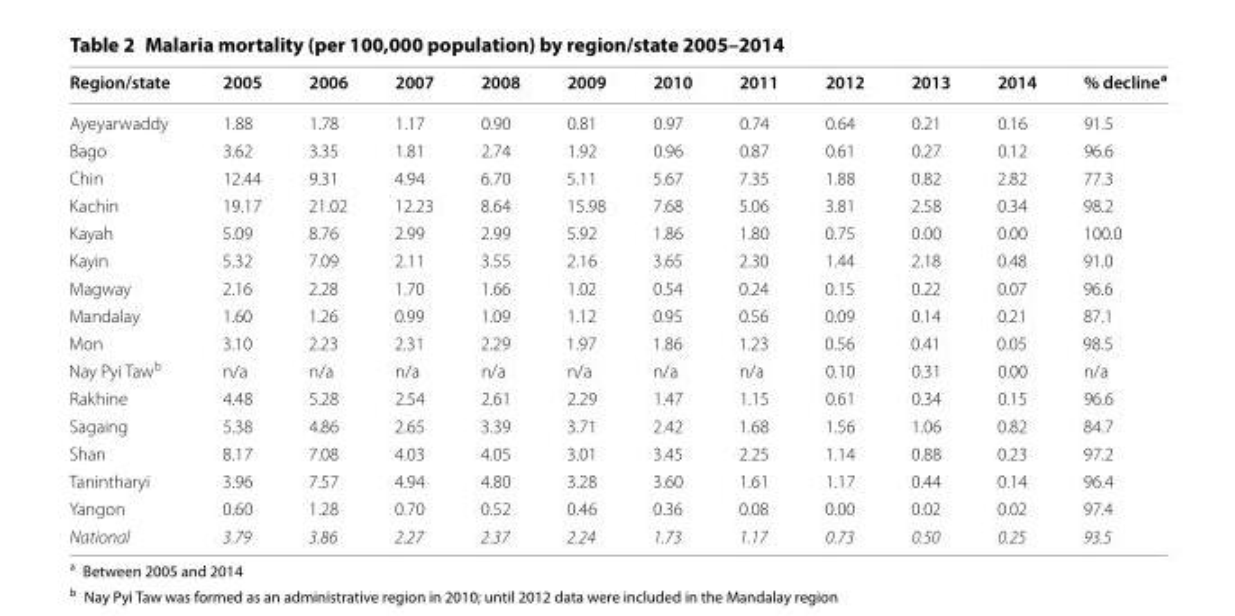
<table><thead><tr><td>Region/state</td><td>2005</td><td>2006</td><td>2007</td><td>2008</td><td>2009</td><td>2010</td><td>2011</td><td>2012</td><td>2013</td><td>2014</td><td>% decline<sup>a</sup></td></tr></thead><tbody><tr><td>Ayeyarwaddy</td><td>1.88</td><td>1.78</td><td>1.17</td><td>0.90</td><td>0.81</td><td>0.97</td><td>0.74</td><td>0.64</td><td>0.21</td><td>0.16</td><td>91.5</td></tr><tr><td>Bago</td><td>3.62</td><td>3.35</td><td>1.81</td><td>2.74</td><td>1.92</td><td>0.96</td><td>0.87</td><td>0.61</td><td>0.27</td><td>0.12</td><td>96.6</td></tr><tr><td>Chin</td><td>12.44</td><td>9.31</td><td>4.94</td><td>6.70</td><td>5.11</td><td>5.67</td><td>7.35</td><td>1.88</td><td>0.82</td><td>2.82</td><td>77.3</td></tr><tr><td>Kachin</td><td>19.17</td><td>21.02</td><td>12.23</td><td>8.64</td><td>15.98</td><td>7.68</td><td>5.06</td><td>3.81</td><td>2.58</td><td>0.34</td><td>98.2</td></tr><tr><td>Kayah</td><td>5.09</td><td>8.76</td><td>2.99</td><td>2.99</td><td>5.92</td><td>1.86</td><td>1.80</td><td>0.75</td><td>0.00</td><td>0.00</td><td>100.0</td></tr><tr><td>Kayin</td><td>5.32</td><td>7.09</td><td>2.11</td><td>3.55</td><td>2.16</td><td>3.65</td><td>2.30</td><td>1.44</td><td>2.18</td><td>0.48</td><td>91.0</td></tr><tr><td>Magway</td><td>2.16</td><td>2.28</td><td>1.70</td><td>1.66</td><td>1.02</td><td>0.54</td><td>0.24</td><td>0.15</td><td>0.22</td><td>0.07</td><td>96.6</td></tr><tr><td>Mandalay</td><td>1.60</td><td>1.26</td><td>0.99</td><td>1.09</td><td>1.12</td><td>0.95</td><td>0.56</td><td>0.09</td><td>0.14</td><td>0.21</td><td>87.1</td></tr><tr><td>Mon</td><td>3.10</td><td>2.23</td><td>2.31</td><td>2.29</td><td>1.97</td><td>1.86</td><td>1.23</td><td>0.56</td><td>0.41</td><td>0.05</td><td>98.5</td></tr><tr><td>Nay Pyi Taw<sup>b</sup></td><td>n/a</td><td>n/a</td><td>n/a</td><td>n/a</td><td>n/a</td><td>n/a</td><td>n/a</td><td>0.10</td><td>0.31</td><td>0.00</td><td>n/a</td></tr><tr><td>Rakhine</td><td>4.48</td><td>5.28</td><td>2.54</td><td>2.61</td><td>2.29</td><td>1.47</td><td>1.15</td><td>0.61</td><td>0.34</td><td>0.15</td><td>96.6</td></tr><tr><td>Sagaing</td><td>5.38</td><td>4.86</td><td>2.65</td><td>3.39</td><td>3.71</td><td>2.42</td><td>1.68</td><td>1.56</td><td>1.06</td><td>0.82</td><td>84.7</td></tr><tr><td>Shan</td><td>8.17</td><td>7.08</td><td>4.03</td><td>4.05</td><td>3.01</td><td>3.45</td><td>2.25</td><td>1.14</td><td>0.88</td><td>0.23</td><td>97.2</td></tr><tr><td>Tanintharyi</td><td>3.96</td><td>7.57</td><td>4.94</td><td>4.80</td><td>3.28</td><td>3.60</td><td>1.61</td><td>1.17</td><td>0.44</td><td>0.14</td><td>96.4</td></tr><tr><td>Yangon</td><td>0.60</td><td>1.28</td><td>0.70</td><td>0.52</td><td>0.46</td><td>0.36</td><td>0.08</td><td>0.00</td><td>0.02</td><td>0.02</td><td>97.4</td></tr><tr><td>National</td><td>3.79</td><td>3.86</td><td>2.27</td><td>2.37</td><td>2.24</td><td>1.73</td><td>1.17</td><td>0.73</td><td>0.50</td><td>0.25</td><td>93.5</td></tr></tbody></table>